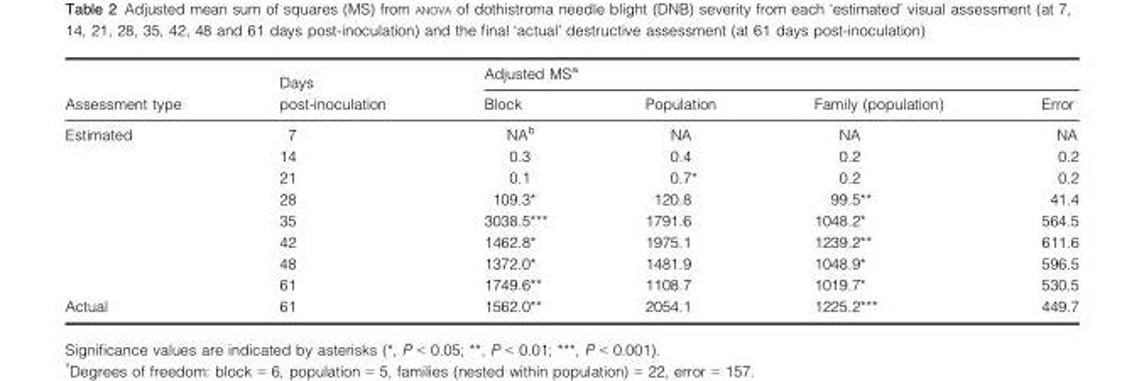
<table><thead><tr><td rowspan="2">Assessment type</td><td rowspan="2">Days post-inoculation</td><td colspan="4">Adjusted MS<sup>a</sup></td></tr><tr><td>Block</td><td>Population</td><td>Family (population)</td><td>Error</td></tr></thead><tbody><tr><td rowspan="8">Estimated</td><td>7</td><td>NA<sup>b</sup></td><td>NA</td><td>NA</td><td>NA</td></tr><tr><td>14</td><td>0.3</td><td>0.4</td><td>0.2</td><td>0.2</td></tr><tr><td>21</td><td>0.1</td><td>0.7*</td><td>0.2</td><td>0.2</td></tr><tr><td>28</td><td>109.3*</td><td>120.8</td><td>99.5**</td><td>41.4</td></tr><tr><td>35</td><td>3038.5***</td><td>1791.6</td><td>1048.2*</td><td>564.5</td></tr><tr><td>42</td><td>1462.8*</td><td>1975.1</td><td>1239.2**</td><td>611.6</td></tr><tr><td>48</td><td>1372.0*</td><td>1481.9</td><td>1048.9*</td><td>596.5</td></tr><tr><td>61</td><td>1749.6**</td><td>1108.7</td><td>1019.7*</td><td>530.5</td></tr><tr><td>Actual</td><td>61</td><td>1562.0**</td><td>2054.1</td><td>1225.2***</td><td>449.7</td></tr></tbody></table>